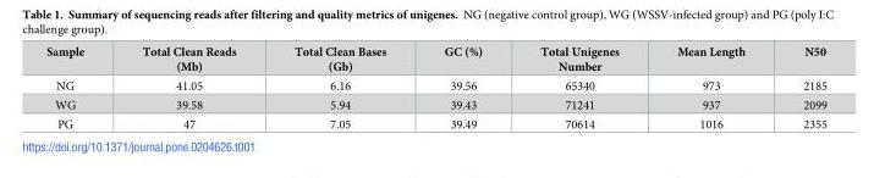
<table><thead><tr><td>Sample</td><td>Total Clean Reads (Mb)</td><td>Total Clean Bases (Gb)</td><td>GC (%)</td><td>Total Unigenes Number</td><td>Mean Length</td><td>N50</td></tr></thead><tbody><tr><td>NG</td><td>41.05</td><td>6.16</td><td>39.56</td><td>65340</td><td>973</td><td>2185</td></tr><tr><td>WG</td><td>39.58</td><td>5.94</td><td>39.43</td><td>71241</td><td>937</td><td>2099</td></tr><tr><td>PG</td><td>47</td><td>7.05</td><td>39.49</td><td>70614</td><td>1016</td><td>2355</td></tr></tbody></table>